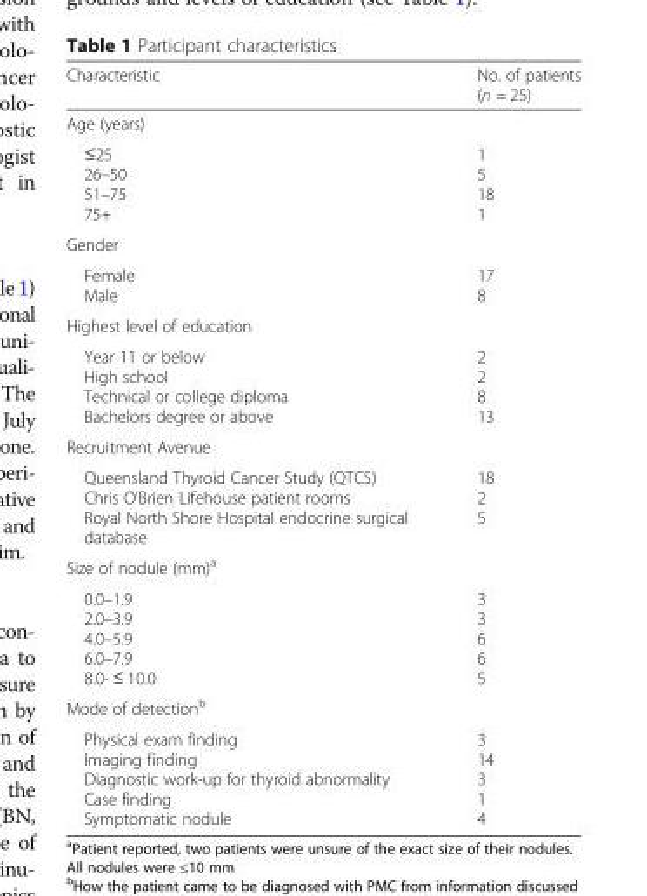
<table><thead><tr><td>Characteristic</td><td>No. of patients (n = 25)</td></tr></thead><tbody><tr><td colspan="2">Age (years)</td></tr><tr><td>≤25 26–50 51–75 75+</td><td>1 5 18 1</td></tr><tr><td colspan="2">Gender</td></tr><tr><td>Female Male</td><td>17 8</td></tr><tr><td colspan="2">Highest level of education</td></tr><tr><td>Year 11 or below High school Technical or college diploma Bachelors degree or above</td><td>2 2 8 13</td></tr><tr><td colspan="2">Recruitment Avenue</td></tr><tr><td>Queensland Thyroid Cancer Study (QTCS) Chris O’Brien Lifehouse patient rooms Royal North Shore Hospital endocrine surgical database</td><td>18 2 5</td></tr><tr><td colspan="2">Size of nodule (mm)<sup>a</sup></td></tr><tr><td>0.0–1.9 2.0–3.9 4.0–5.9 6.0–7.9 8.0- ≤ 10.0</td><td>3 3 6 6 5</td></tr><tr><td colspan="2">Mode of detection<sup>b</sup></td></tr><tr><td>Physical exam finding Imaging finding Diagnostic work-up for thyroid abnormality Case finding Symptomatic nodule</td><td>3 14 3 1 4</td></tr></tbody></table>